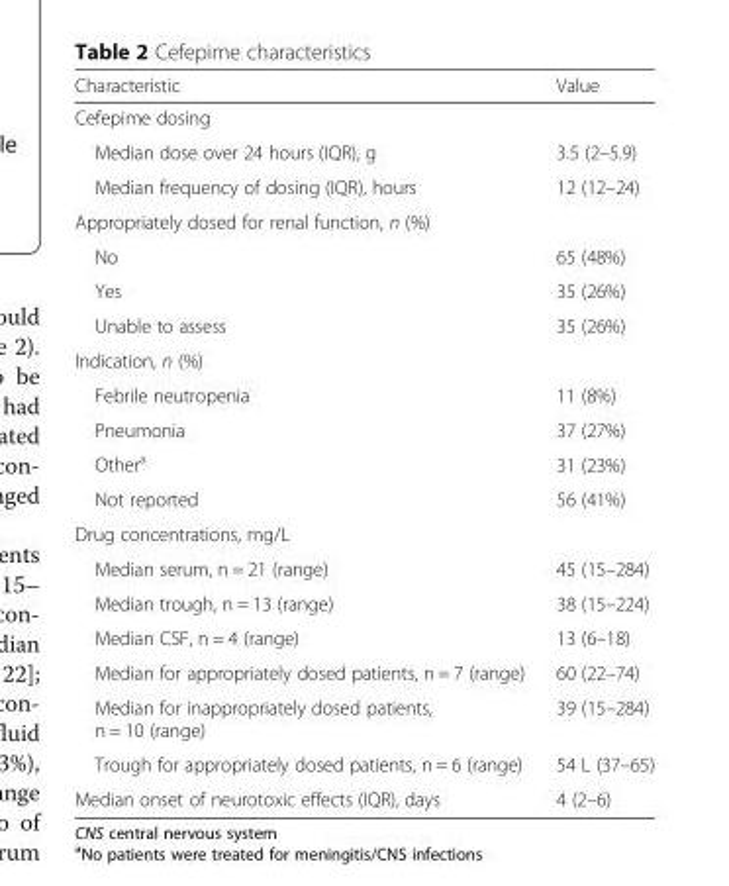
<table><thead><tr><td>Characteristic</td><td>Value</td></tr></thead><tbody><tr><td colspan="2">Cefepime dosing</td></tr><tr><td>Median dose over 24 hours (IQR), g</td><td>3.5 (2–5.9)</td></tr><tr><td>Median frequency of dosing (IQR), hours</td><td>12 (12–24)</td></tr><tr><td colspan="2">Appropriately dosed for renal function, n (%)</td></tr><tr><td>No</td><td>65 (48%)</td></tr><tr><td>Yes</td><td>35 (26%)</td></tr><tr><td>Unable to assess</td><td>35 (26%)</td></tr><tr><td colspan="2">Indication, n (%)</td></tr><tr><td>Febrile neutropenia</td><td>11 (8%)</td></tr><tr><td>Pneumonia</td><td>37 (27%)</td></tr><tr><td>Other<sup>a</sup></td><td>31 (23%)</td></tr><tr><td>Not reported</td><td>56 (41%)</td></tr><tr><td colspan="2">Drug concentrations, mg/L</td></tr><tr><td>Median serum, n = 21 (range)</td><td>45 (15–284)</td></tr><tr><td>Median trough, n = 13 (range)</td><td>38 (15–224)</td></tr><tr><td>Median CSF, n = 4 (range)</td><td>13 (6–18)</td></tr><tr><td>Median for appropriately dosed patients, n = 7 (range)</td><td>60 (22–74)</td></tr><tr><td>Median for inappropriately dosed patients, n = 10 (range)</td><td>39 (15–284)</td></tr><tr><td>Trough for appropriately dosed patients, n = 6 (range)</td><td>54 L (37–65)</td></tr><tr><td>Median onset of neurotoxic effects (IQR), days</td><td>4 (2–6)</td></tr></tbody></table>